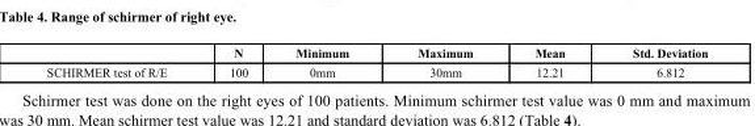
<table><thead><tr><td></td><td>N</td><td>Minimum</td><td>Maximum</td><td>Mean</td><td>Std. Deviation</td></tr></thead><tbody><tr><td>SCHIRMER test of R/E</td><td>100</td><td>0mm</td><td>30mm</td><td>12.21</td><td>6.812</td></tr></tbody></table>